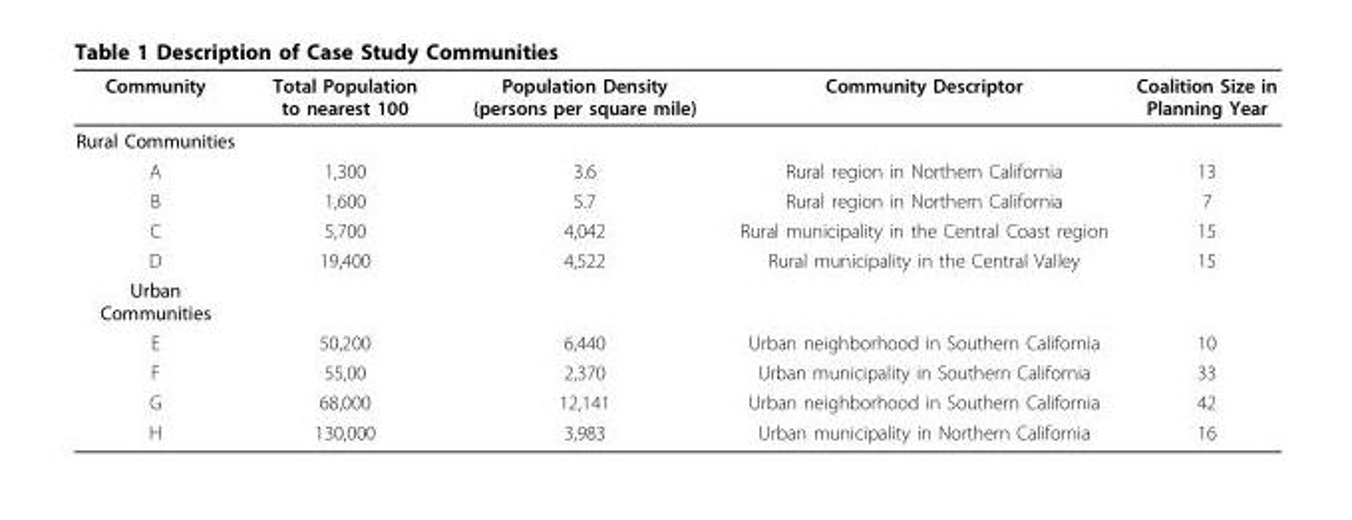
<table><thead><tr><td>Community</td><td>Total Population to nearest 100</td><td>Population Density (persons per square mile)</td><td>Community Descriptor</td><td>Coalition Size in Planning Year</td></tr></thead><tbody><tr><td colspan="5">Rural Communities</td></tr><tr><td>A</td><td>1,300</td><td>3.6</td><td>Rural region in Northern California</td><td>13</td></tr><tr><td>B</td><td>1,600</td><td>5.7</td><td>Rural region in Northern California</td><td>7</td></tr><tr><td>C</td><td>5,700</td><td>4,042</td><td>Rural municipality in the Central Coast region</td><td>15</td></tr><tr><td>D</td><td>19,400</td><td>4,522</td><td>Rural municipality in the Central Valley</td><td>15</td></tr><tr><td colspan="5">Urban Communities</td></tr><tr><td>E</td><td>50,200</td><td>6,440</td><td>Urban neighborhood in Southern California</td><td>10</td></tr><tr><td>F</td><td>55,00</td><td>2,370</td><td>Urban municipality in Southern California</td><td>33</td></tr><tr><td>G</td><td>68,000</td><td>12,141</td><td>Urban neighborhood in Southern California</td><td>42</td></tr><tr><td>H</td><td>130,000</td><td>3,983</td><td>Urban municipality in Northern California</td><td>16</td></tr></tbody></table>